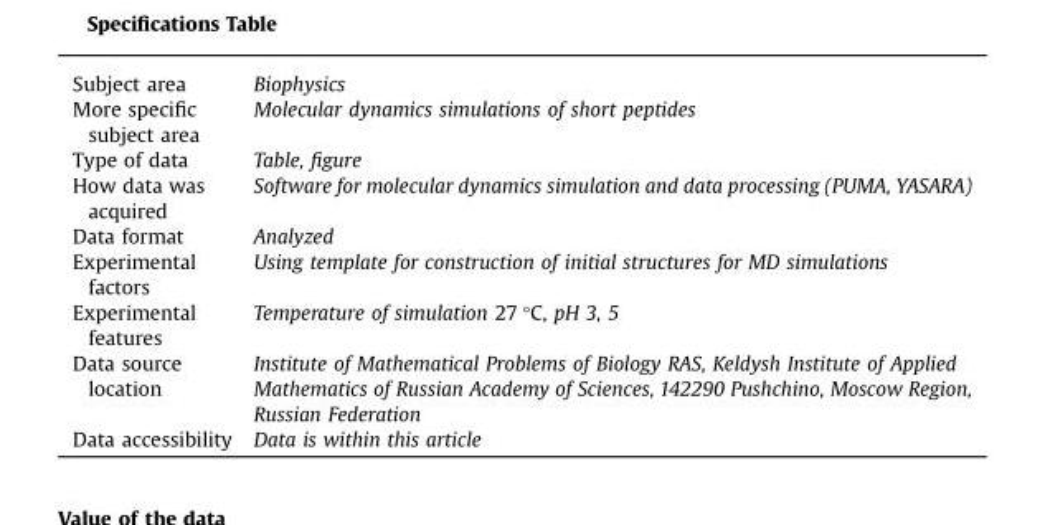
<table><tbody><tr><td>Subject area</td><td>Biophysics</td></tr><tr><td>More specific subject area</td><td>Molecular dynamics simulations of short peptides</td></tr><tr><td>Type of data</td><td>Table, figure</td></tr><tr><td>How data was acquired</td><td>Software for molecular dynamics simulation and data processing (PUMA, YASARA)</td></tr><tr><td>Data format</td><td>Analyzed</td></tr><tr><td>Experimental factors</td><td>Using template for construction of initial structures for MD simulations</td></tr><tr><td>Experimental features</td><td>Temperature of simulation 27 °C, pH 3, 5</td></tr><tr><td>Data source location</td><td>Institute of Mathematical Problems of Biology RAS, Keldysh Institute of Applied Mathematics of Russian Academy of Sciences, 142290 Pushchino, Moscow Region, Russian Federation</td></tr><tr><td>Data accessibility</td><td>Data is within this article</td></tr></tbody></table>